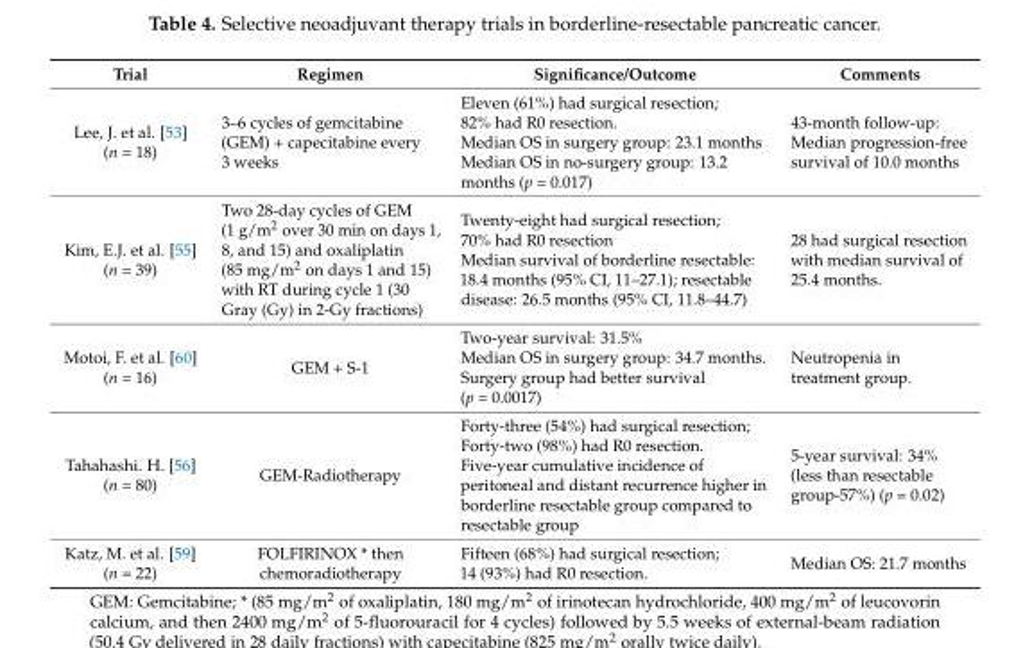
<table><thead><tr><td>Trial</td><td>Regimen</td><td>Significance/Outcome</td><td>Comments</td></tr></thead><tbody><tr><td>Lee, J. et al. [53] (n = 18)</td><td>3–6 cycles of gemcitabine (GEM) + capecitabine every 3 weeks</td><td>Eleven (61%) had surgical resection; 82% had R0 resection. Median OS in surgery group: 23.1 months Median OS in no-surgery group: 13.2 months (p = 0.017)</td><td>43-month follow-up: Median progression-free survival of 10.0 months</td></tr><tr><td>Kim, E.J. et al. [55] (n = 39)</td><td>Two 28-day cycles of GEM (1 g/m<sup>2</sup> over 30 min on days 1, 8, and 15) and oxaliplatin (85 mg/m<sup>2</sup> on days 1 and 15) with RT during cycle 1 (30 Gray (Gy) in 2-Gy fractions)</td><td>Twenty-eight had surgical resection; 70% had R0 resection Median survival of borderline resectable: 18.4 months (95% CI, 11–27.1); resectable disease: 26.5 months (95% CI, 11.8–44.7)</td><td>28 had surgical resection with median survival of 25.4 months.</td></tr><tr><td>Motoi, F. et al. [60] (n = 16)</td><td>GEM + S-1</td><td>Two-year survival: 31.5% Median OS in surgery group: 34.7 months. Surgery group had better survival (p = 0.0017)</td><td>Neutropenia in treatment group.</td></tr><tr><td>Tahahashi. H. [56] (n = 80)</td><td>GEM-Radiotherapy</td><td>Forty-three (54%) had surgical resection; Forty-two (98%) had R0 resection. Five-year cumulative incidence of peritoneal and distant recurrence higher in borderline resectable group compared to resectable group</td><td>5-year survival: 34% (less than resectable group-57%) (p = 0.02)</td></tr><tr><td>Katz, M. et al. [59] (n = 22)</td><td>FOLFIRINOX * then chemoradiotherapy</td><td>Fifteen (68%) had surgical resection; 14 (93%) had R0 resection.</td><td>Median OS: 21.7 months</td></tr></tbody></table>